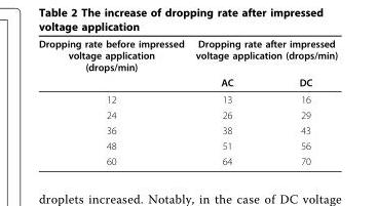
<table><thead><tr><td rowspan="2">Dropping rate before impressed voltage application (drops/min)</td><td colspan="2">Dropping rate after impressed voltage application (drops/min)</td></tr><tr><td>AC</td><td>DC</td></tr></thead><tbody><tr><td>12</td><td>13</td><td>16</td></tr><tr><td>24</td><td>26</td><td>29</td></tr><tr><td>36</td><td>38</td><td>43</td></tr><tr><td>48</td><td>51</td><td>56</td></tr><tr><td>60</td><td>64</td><td>70</td></tr></tbody></table>